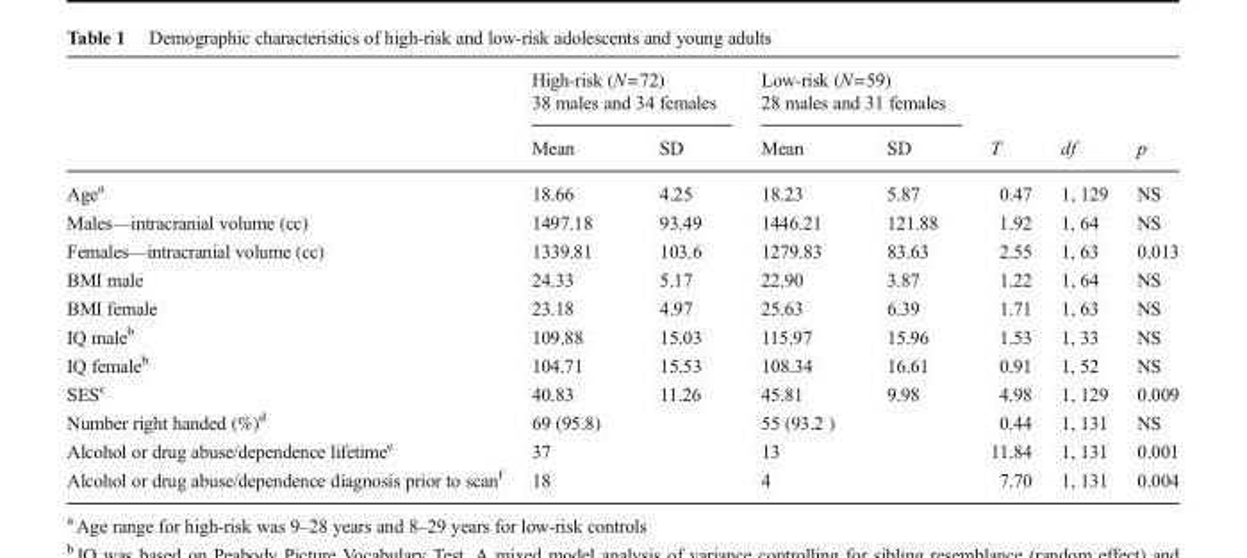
<table><thead><tr><td rowspan="2"></td><td colspan="2">High-risk (N=72) 38 males and 34 females</td><td colspan="2">Low-risk (N=59) 28 males and 31 females</td><td rowspan="2">T</td><td rowspan="2">df</td><td rowspan="2">p</td></tr><tr><td>Mean</td><td>SD</td><td>Mean</td><td>SD</td></tr></thead><tbody><tr><td>Age<sup>a</sup></td><td>18.66</td><td>4.25</td><td>18.23</td><td>5.87</td><td>0.47</td><td>1, 129</td><td>NS</td></tr><tr><td>Males—intracranial volume (cc)</td><td>1497.18</td><td>93.49</td><td>1446.21</td><td>121.88</td><td>1.92</td><td>1, 64</td><td>NS</td></tr><tr><td>Females—intracranial volume (cc)</td><td>1339.81</td><td>103.6</td><td>1279.83</td><td>83.63</td><td>2.55</td><td>1, 63</td><td>0.013</td></tr><tr><td>BMI male</td><td>24.33</td><td>5.17</td><td>22.90</td><td>3.87</td><td>1.22</td><td>1, 64</td><td>NS</td></tr><tr><td>BMI female</td><td>23.18</td><td>4.97</td><td>25.63</td><td>6.39</td><td>1.71</td><td>1, 63</td><td>NS</td></tr><tr><td>IQ male<sup>b</sup></td><td>109.88</td><td>15.03</td><td>115.97</td><td>15.96</td><td>1.53</td><td>1, 33</td><td>NS</td></tr><tr><td>IQ female<sup>b</sup></td><td>104.71</td><td>15.53</td><td>108.34</td><td>16.61</td><td>0.91</td><td>1, 52</td><td>NS</td></tr><tr><td>SES<sup>c</sup></td><td>40.83</td><td>11.26</td><td>45.81</td><td>9.98</td><td>4.98</td><td>1, 129</td><td>0.009</td></tr><tr><td>Number right handed (%)<sup>d</sup></td><td>69 (95.8)</td><td></td><td>55 (93.2 )</td><td></td><td>0.44</td><td>1, 131</td><td>NS</td></tr><tr><td>Alcohol or drug abuse/dependence lifetime<sup>e</sup></td><td>37</td><td></td><td>13</td><td></td><td>11.84</td><td>1, 131</td><td>0.001</td></tr><tr><td>Alcohol or drug abuse/dependence diagnosis prior to scan<sup>f</sup></td><td>18</td><td></td><td>4</td><td></td><td>7.70</td><td>1, 131</td><td>0.004</td></tr></tbody></table>